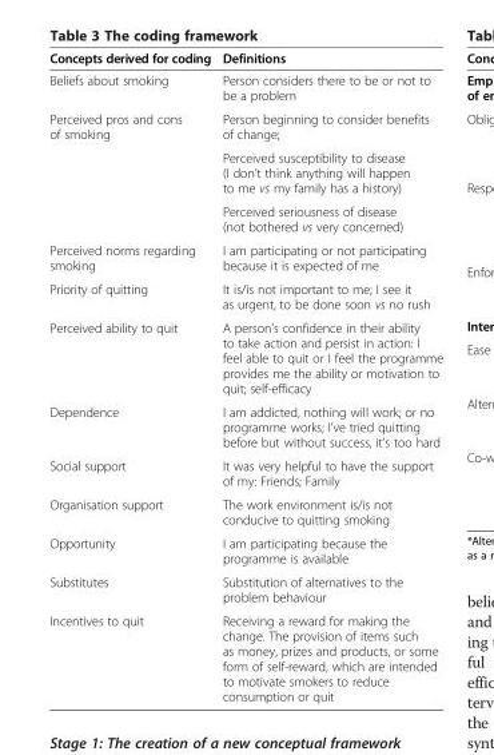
<table><thead><tr><td>Concepts derived for coding</td><td>Definitions</td></tr></thead><tbody><tr><td>Beliefs about smoking</td><td>Person considers there to be or not to be a problem</td></tr><tr><td rowspan="3">Perceived pros and cons of smoking</td><td>Person beginning to consider benefits of change;</td></tr><tr><td>Perceived susceptibility to disease (I don’t think anything will happen to me vs my family has a history)</td></tr><tr><td>Perceived seriousness of disease (not bothered vs very concerned)</td></tr><tr><td>Perceived norms regarding smoking</td><td>I am participating or not participating because it is expected of me</td></tr><tr><td>Priority of quitting</td><td>It is/is not important to me; I see it as urgent, to be done soon vs no rush</td></tr><tr><td>Perceived ability to quit</td><td>A person’s confidence in their ability to take action and persist in action: I feel able to quit or I feel the programme provides me the ability or motivation to quit; self-efficacy</td></tr><tr><td>Dependence</td><td>I am addicted, nothing will work; or no programme works; I’ve tried quitting before but without success, it’s too hard</td></tr><tr><td>Social support</td><td>It was very helpful to have the support of my: Friends; Family</td></tr><tr><td>Organisation support</td><td>The work environment is/is not conducive to quitting smoking</td></tr><tr><td>Opportunity</td><td>I am participating because the programme is available</td></tr><tr><td>Substitutes</td><td>Substitution of alternatives to the problem behaviour</td></tr><tr><td>Incentives to quit</td><td>Receiving a reward for making the change. The provision of items such as money, prizes and products, or some form of self-reward, which are intended to motivate smokers to reduce consumption or quit</td></tr></tbody></table>